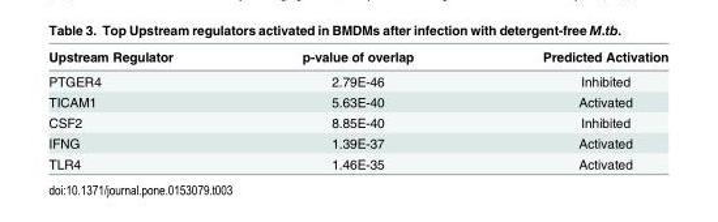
<table><thead><tr><td>Upstream Regulator</td><td>p-value of overlap</td><td>Predicted Activation</td></tr></thead><tbody><tr><td>PTGER4</td><td>2.79E-46</td><td>Inhibited</td></tr><tr><td>TICAM1</td><td>5.63E-40</td><td>Activated</td></tr><tr><td>CSF2</td><td>8.85E-40</td><td>Inhibited</td></tr><tr><td>IFNG</td><td>1.39E-37</td><td>Activated</td></tr><tr><td>TLR4</td><td>1.46E-35</td><td>Activated</td></tr></tbody></table>